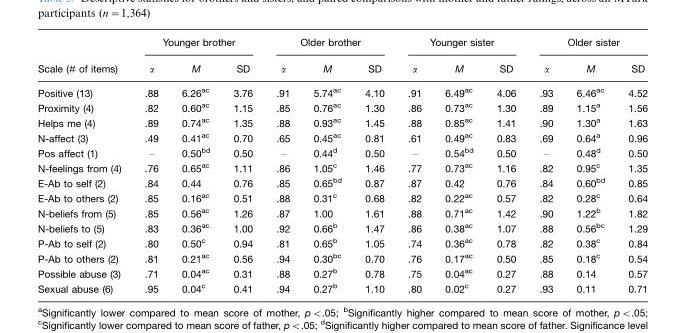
<table><thead><tr><td rowspan="2">Scale (# of items)</td><td colspan="3">Younger brother</td><td colspan="3">Older brother</td><td colspan="3">Younger sister</td><td colspan="3">Older sister</td></tr><tr><td>α</td><td>M</td><td>SD</td><td>α</td><td>M</td><td>SD</td><td>α</td><td>M</td><td>SD</td><td>α</td><td>M</td><td>SD</td></tr></thead><tbody><tr><td>Positive (13)</td><td>.88</td><td>6.26<sup>ac</sup></td><td>3.76</td><td>.91</td><td>5.74<sup>ac</sup></td><td>4.10</td><td>.91</td><td>6.49<sup>ac</sup></td><td>4.06</td><td>.93</td><td>6.46<sup>ac</sup></td><td>4.52</td></tr><tr><td>Proximity (4)</td><td>.82</td><td>0.60<sup>ac</sup></td><td>1.15</td><td>.85</td><td>0.76<sup>ac</sup></td><td>1.30</td><td>.86</td><td>0.73<sup>ac</sup></td><td>1.30</td><td>.89</td><td>1.15<sup>a</sup></td><td>1.56</td></tr><tr><td>Helps me (4)</td><td>.89</td><td>0.74<sup>ac</sup></td><td>1.35</td><td>.88</td><td>0.93<sup>ac</sup></td><td>1.45</td><td>.88</td><td>0.85<sup>ac</sup></td><td>1.41</td><td>.90</td><td>1.30<sup>a</sup></td><td>1.63</td></tr><tr><td>N-affect (3)</td><td>.49</td><td>0.41<sup>ac</sup></td><td>0.70</td><td>.65</td><td>0.45<sup>ac</sup></td><td>0.81</td><td>.61</td><td>0.49<sup>ac</sup></td><td>0.83</td><td>.69</td><td>0.64<sup>a</sup></td><td>0.96</td></tr><tr><td>Pos affect (1)</td><td>–</td><td>0.50<sup>bd</sup></td><td>0.50</td><td>–</td><td>0.44<sup>d</sup></td><td>0.50</td><td>–</td><td>0.54<sup>bd</sup></td><td>0.50</td><td>–</td><td>0.48<sup>d</sup></td><td>0.50</td></tr><tr><td>N-feelings from (4)</td><td>.76</td><td>0.65<sup>ac</sup></td><td>1.11</td><td>.86</td><td>1.05<sup>c</sup></td><td>1.46</td><td>.77</td><td>0.73<sup>ac</sup></td><td>1.16</td><td>.82</td><td>0.95<sup>c</sup></td><td>1.35</td></tr><tr><td>E-Ab to self (2)</td><td>.84</td><td>0.44</td><td>0.76</td><td>.85</td><td>0.65<sup>bd</sup></td><td>0.87</td><td>.87</td><td>0.42</td><td>0.76</td><td>.84</td><td>0.60<sup>bd</sup></td><td>0.85</td></tr><tr><td>E-Ab to others (2)</td><td>.85</td><td>0.16<sup>ac</sup></td><td>0.51</td><td>.88</td><td>0.31<sup>c</sup></td><td>0.68</td><td>.82</td><td>0.22<sup>ac</sup></td><td>0.57</td><td>.82</td><td>0.28<sup>c</sup></td><td>0.64</td></tr><tr><td>N-beliefs from (5)</td><td>.85</td><td>0.56<sup>ac</sup></td><td>1.26</td><td>.87</td><td>1.00</td><td>1.61</td><td>.88</td><td>0.71<sup>ac</sup></td><td>1.42</td><td>.90</td><td>1.22<sup>b</sup></td><td>1.82</td></tr><tr><td>N-beliefs to (5)</td><td>.83</td><td>0.36<sup>ac</sup></td><td>1.00</td><td>.92</td><td>0.66<sup>b</sup></td><td>1.47</td><td>.86</td><td>0.38<sup>ac</sup></td><td>1.07</td><td>.88</td><td>0.56<sup>bc</sup></td><td>1.29</td></tr><tr><td>P-Ab to self (2)</td><td>.80</td><td>0.50<sup>c</sup></td><td>0.94</td><td>.81</td><td>0.65<sup>b</sup></td><td>1.05</td><td>.74</td><td>0.36<sup>ac</sup></td><td>0.78</td><td>.82</td><td>0.38<sup>c</sup></td><td>0.84</td></tr><tr><td>P-Ab to others (2)</td><td>.81</td><td>0.21<sup>ac</sup></td><td>0.56</td><td>.94</td><td>0.30<sup>bc</sup></td><td>0.70</td><td>.76</td><td>0.17<sup>ac</sup></td><td>0.50</td><td>.85</td><td>0.18<sup>c</sup></td><td>0.54</td></tr><tr><td>Possible abuse (3)</td><td>.71</td><td>0.04<sup>ac</sup></td><td>0.31</td><td>.88</td><td>0.27<sup>b</sup></td><td>0.78</td><td>.75</td><td>0.04<sup>ac</sup></td><td>0.27</td><td>.88</td><td>0.14</td><td>0.57</td></tr><tr><td>Sexual abuse (6)</td><td>.95</td><td>0.04<sup>c</sup></td><td>0.41</td><td>.94</td><td>0.27<sup>b</sup></td><td>1.10</td><td>.80</td><td>0.02<sup>c</sup></td><td>0.27</td><td>.93</td><td>0.11</td><td>0.71</td></tr></tbody></table>